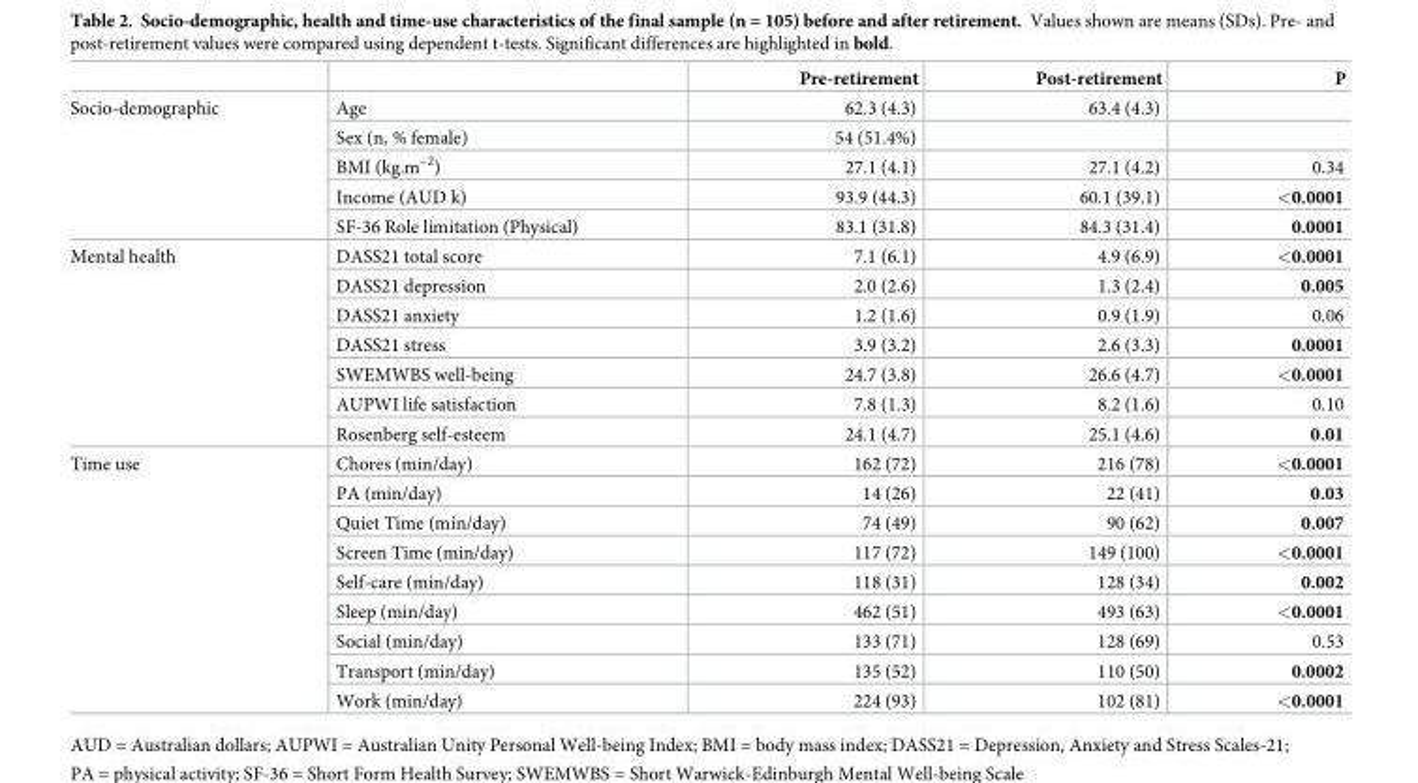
<table><thead><tr><td></td><td></td><td>Pre-retirement</td><td>Post-retirement</td><td>P</td></tr></thead><tbody><tr><td rowspan="5">Socio-demographic</td><td>Age</td><td>62.3 (4.3)</td><td>63.4 (4.3)</td><td></td></tr><tr><td>Sex (n, % female)</td><td>54 (51.4%)</td><td></td><td></td></tr><tr><td>BMI (kg.m<sup>–2</sup>)</td><td>27.1 (4.1)</td><td>27.1 (4.2)</td><td>0.34</td></tr><tr><td>Income (AUD k)</td><td>93.9 (44.3)</td><td>60.1 (39.1)</td><td>&lt;0.0001</td></tr><tr><td>SF-36 Role limitation (Physical)</td><td>83.1 (31.8)</td><td>84.3 (31.4)</td><td>0.0001</td></tr><tr><td rowspan="7">Mental health</td><td>DASS21 total score</td><td>7.1 (6.1)</td><td>4.9 (6.9)</td><td>&lt;0.0001</td></tr><tr><td>DASS21 depression</td><td>2.0 (2.6)</td><td>1.3 (2.4)</td><td>0.005</td></tr><tr><td>DASS21 anxiety</td><td>1.2 (1.6)</td><td>0.9 (1.9)</td><td>0.06</td></tr><tr><td>DASS21 stress</td><td>3.9 (3.2)</td><td>2.6 (3.3)</td><td>0.0001</td></tr><tr><td>SWEMWBS well-being</td><td>24.7 (3.8)</td><td>26.6 (4.7)</td><td>&lt;0.0001</td></tr><tr><td>AUPWI life satisfaction</td><td>7.8 (1.3)</td><td>8.2 (1.6)</td><td>0.10</td></tr><tr><td>Rosenberg self-esteem</td><td>24.1 (4.7)</td><td>25.1 (4.6)</td><td>0.01</td></tr><tr><td rowspan="9">Time use</td><td>Chores (min/day)</td><td>162 (72)</td><td>216 (78)</td><td>&lt;0.0001</td></tr><tr><td>PA (min/day)</td><td>14 (26)</td><td>22 (41)</td><td>0.03</td></tr><tr><td>Quiet Time (min/day)</td><td>74 (49)</td><td>90 (62)</td><td>0.007</td></tr><tr><td>Screen Time (min/day)</td><td>117 (72)</td><td>149 (100)</td><td>&lt;0.0001</td></tr><tr><td>Self-care (min/day)</td><td>118 (31)</td><td>128 (34)</td><td>0.002</td></tr><tr><td>Sleep (min/day)</td><td>462 (51)</td><td>493 (63)</td><td>&lt;0.0001</td></tr><tr><td>Social (min/day)</td><td>133 (71)</td><td>128 (69)</td><td>0.53</td></tr><tr><td>Transport (min/day)</td><td>135 (52)</td><td>110 (50)</td><td>0.0002</td></tr><tr><td>Work (min/day)</td><td>224 (93)</td><td>102 (81)</td><td>&lt;0.0001</td></tr></tbody></table>